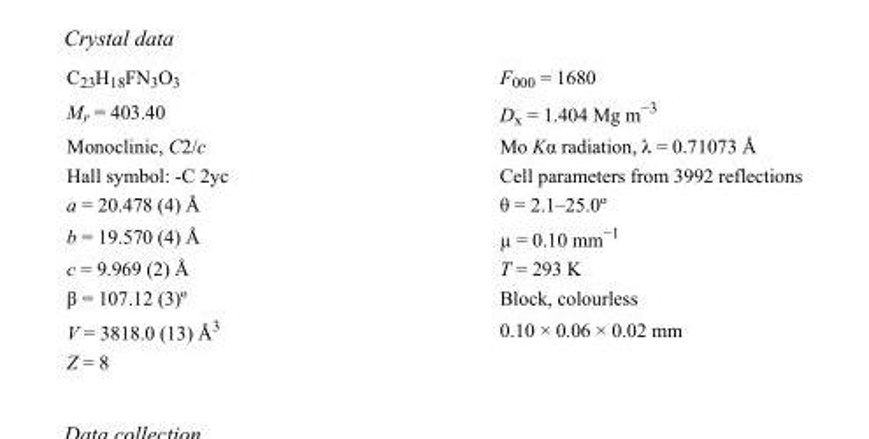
<table><tbody><tr><td>C<sub>23</sub>H<sub>18</sub>FN<sub>3</sub>O<sub>3</sub></td><td>F000 = 1680</td></tr><tr><td>M<sub>r</sub> = 403.40</td><td>D<sub>x</sub> = 1.404 Mg m<sup>−3</sup></td></tr><tr><td>Monoclinic, C2/c</td><td>Mo Kα radiation, λ = 0.71073 Å</td></tr><tr><td>Hall symbol: -C 2yc</td><td>Cell parameters from 3992 reflections</td></tr><tr><td>a = 20.478 (4) Å</td><td>θ = 2.1–25.0º</td></tr><tr><td>b = 19.570 (4) Å</td><td>µ = 0.10 mm<sup>−1</sup></td></tr><tr><td>c = 9.969 (2) Å</td><td>T = 293 K</td></tr><tr><td>β = 107.12 (3)º</td><td>Block, colourless</td></tr><tr><td>V = 3818.0 (13) Å<sup>3</sup></td><td>0.10 × 0.06 × 0.02 mm</td></tr><tr><td>Z = 8</td><td></td></tr></tbody></table>